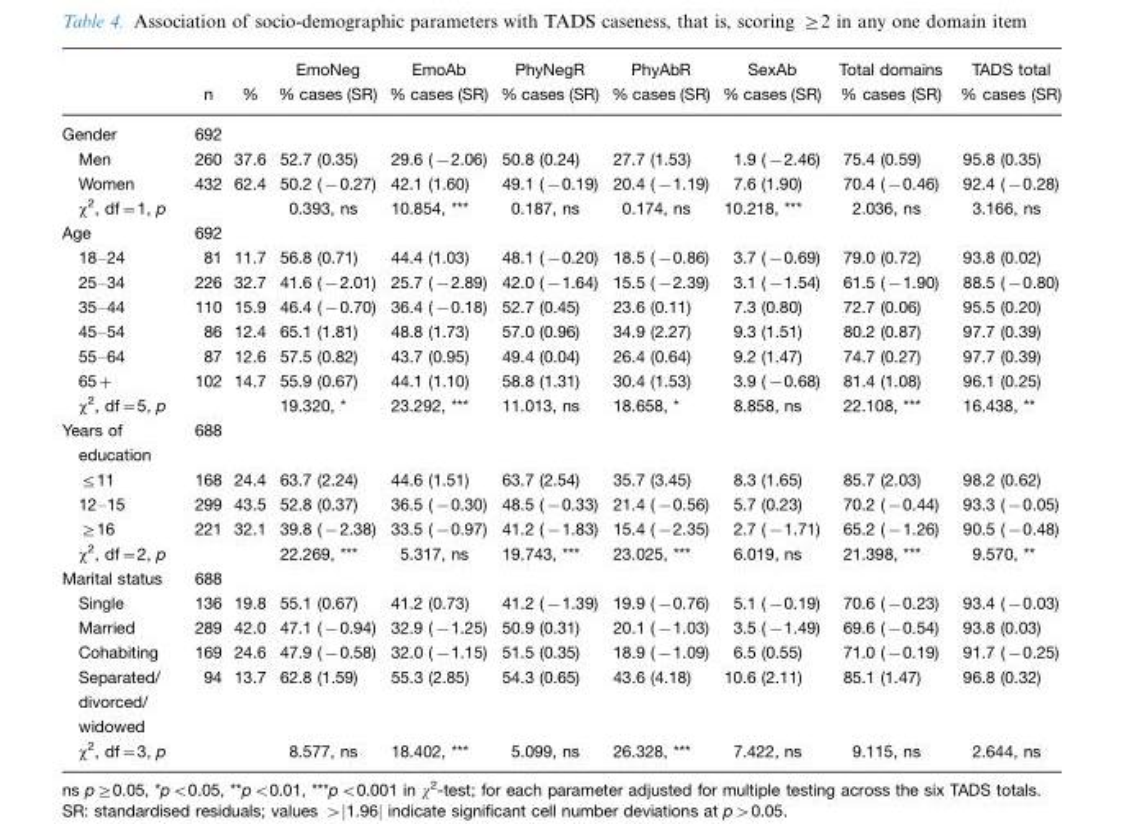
<table><thead><tr><td></td><td>n</td><td>%</td><td>EmoNeg % cases (SR)</td><td>EmoAb % cases (SR)</td><td>PhyNegR % cases (SR)</td><td>PhyAbR % cases (SR)</td><td>SexAb % cases (SR)</td><td>Total domains % cases (SR)</td><td>TADS total % cases (SR)</td></tr></thead><tbody><tr><td>Gender</td><td>692</td><td></td><td></td><td></td><td></td><td></td><td></td><td></td><td></td></tr><tr><td>Men</td><td>260</td><td>37.6</td><td>52.7 (0.35)</td><td>29.6 (−2.06)</td><td>50.8 (0.24)</td><td>27.7 (1.53)</td><td>1.9 (−2.46)</td><td>75.4 (0.59)</td><td>95.8 (0.35)</td></tr><tr><td>Women</td><td>432</td><td>62.4</td><td>50.2 (−0.27)</td><td>42.1 (1.60)</td><td>49.1 (−0.19)</td><td>20.4 (−1.19)</td><td>7.6 (1.90)</td><td>70.4 (−0.46)</td><td>92.4 (−0.28)</td></tr><tr><td>χ<sup>2</sup>, df=1, p</td><td></td><td></td><td>0.393, ns</td><td>10.854, ***</td><td>0.187, ns</td><td>0.174, ns</td><td>10.218, ***</td><td>2.036, ns</td><td>3.166, ns</td></tr><tr><td>Age</td><td>692</td><td></td><td></td><td></td><td></td><td></td><td></td><td></td><td></td></tr><tr><td>18–24</td><td>81</td><td>11.7</td><td>56.8 (0.71)</td><td>44.4 (1.03)</td><td>48.1 (−0.20)</td><td>18.5 (−0.86)</td><td>3.7 (−0.69)</td><td>79.0 (0.72)</td><td>93.8 (0.02)</td></tr><tr><td>25–34</td><td>226</td><td>32.7</td><td>41.6 (−2.01)</td><td>25.7 (−2.89)</td><td>42.0 (−1.64)</td><td>15.5 (−2.39)</td><td>3.1 (−1.54)</td><td>61.5 (−1.90)</td><td>88.5 (−0.80)</td></tr><tr><td>35–44</td><td>110</td><td>15.9</td><td>46.4 (−0.70)</td><td>36.4 (−0.18)</td><td>52.7 (0.45)</td><td>23.6 (0.11)</td><td>7.3 (0.80)</td><td>72.7 (0.06)</td><td>95.5 (0.20)</td></tr><tr><td>45–54</td><td>86</td><td>12.4</td><td>65.1 (1.81)</td><td>48.8 (1.73)</td><td>57.0 (0.96)</td><td>34.9 (2.27)</td><td>9.3 (1.51)</td><td>80.2 (0.87)</td><td>97.7 (0.39)</td></tr><tr><td>55–64</td><td>87</td><td>12.6</td><td>57.5 (0.82)</td><td>43.7 (0.95)</td><td>49.4 (0.04)</td><td>26.4 (0.64)</td><td>9.2 (1.47)</td><td>74.7 (0.27)</td><td>97.7 (0.39)</td></tr><tr><td>65+</td><td>102</td><td>14.7</td><td>55.9 (0.67)</td><td>44.1 (1.10)</td><td>58.8 (1.31)</td><td>30.4 (1.53)</td><td>3.9 (−0.68)</td><td>81.4 (1.08)</td><td>96.1 (0.25)</td></tr><tr><td>χ<sup>2</sup>, df=5, p</td><td></td><td></td><td>19.320, *</td><td>23.292, ***</td><td>11.013, ns</td><td>18.658, *</td><td>8.858, ns</td><td>22.108, ***</td><td>16.438, **</td></tr><tr><td>Years of education</td><td>688</td><td></td><td></td><td></td><td></td><td></td><td></td><td></td><td></td></tr><tr><td>≤11</td><td>168</td><td>24.4</td><td>63.7 (2.24)</td><td>44.6 (1.51)</td><td>63.7 (2.54)</td><td>35.7 (3.45)</td><td>8.3 (1.65)</td><td>85.7 (2.03)</td><td>98.2 (0.62)</td></tr><tr><td>12–15</td><td>299</td><td>43.5</td><td>52.8 (0.37)</td><td>36.5 (−0.30)</td><td>48.5 (−0.33)</td><td>21.4 (−0.56)</td><td>5.7 (0.23)</td><td>70.2 (−0.44)</td><td>93.3 (−0.05)</td></tr><tr><td>≥16</td><td>221</td><td>32.1</td><td>39.8 (−2.38)</td><td>33.5 (−0.97)</td><td>41.2 (−1.83)</td><td>15.4 (−2.35)</td><td>2.7 (−1.71)</td><td>65.2 (−1.26)</td><td>90.5 (−0.48)</td></tr><tr><td>χ<sup>2</sup>, df=2, p</td><td></td><td></td><td>22.269, ***</td><td>5.317, ns</td><td>19.743, ***</td><td>23.025, ***</td><td>6.019, ns</td><td>21.398, ***</td><td>9.570, **</td></tr><tr><td>Marital status</td><td>688</td><td></td><td></td><td></td><td></td><td></td><td></td><td></td><td></td></tr><tr><td>Single</td><td>136</td><td>19.8</td><td>55.1 (0.67)</td><td>41.2 (0.73)</td><td>41.2 (−1.39)</td><td>19.9 (−0.76)</td><td>5.1 (−0.19)</td><td>70.6 (−0.23)</td><td>93.4 (−0.03)</td></tr><tr><td>Married</td><td>289</td><td>42.0</td><td>47.1 (−0.94)</td><td>32.9 (−1.25)</td><td>50.9 (0.31)</td><td>20.1 (−1.03)</td><td>3.5 (−1.49)</td><td>69.6 (−0.54)</td><td>93.8 (0.03)</td></tr><tr><td>Cohabiting</td><td>169</td><td>24.6</td><td>47.9 (−0.58)</td><td>32.0 (−1.15)</td><td>51.5 (0.35)</td><td>18.9 (−1.09)</td><td>6.5 (0.55)</td><td>71.0 (−0.19)</td><td>91.7 (−0.25)</td></tr><tr><td>Separated/ divorced/ widowed</td><td>94</td><td>13.7</td><td>62.8 (1.59)</td><td>55.3 (2.85)</td><td>54.3 (0.65)</td><td>43.6 (4.18)</td><td>10.6 (2.11)</td><td>85.1 (1.47)</td><td>96.8 (0.32)</td></tr><tr><td>χ<sup>2</sup>, df=3, p</td><td></td><td></td><td>8.577, ns</td><td>18.402, ***</td><td>5.099, ns</td><td>26.328, ***</td><td>7.422, ns</td><td>9.115, ns</td><td>2.644, ns</td></tr></tbody></table>